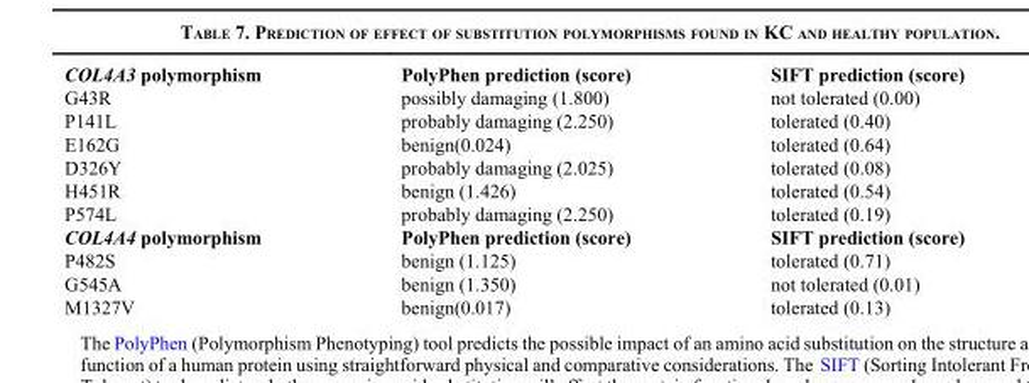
<table><thead><tr><td>COL4A3 polymorphism</td><td>PolyPhen prediction (score)</td><td>SIFT prediction (score)</td></tr></thead><tbody><tr><td>G43R</td><td>possibly damaging (1.800)</td><td>not tolerated (0.00)</td></tr><tr><td>P141L</td><td>probably damaging (2.250)</td><td>tolerated (0.40)</td></tr><tr><td>E162G</td><td>benign(0.024)</td><td>tolerated (0.64)</td></tr><tr><td>D326Y</td><td>probably damaging (2.025)</td><td>tolerated (0.08)</td></tr><tr><td>H451R</td><td>benign (1.426)</td><td>tolerated (0.54)</td></tr><tr><td>P574L</td><td>probably damaging (2.250)</td><td>tolerated (0.19)</td></tr><tr><td>COL4A4 polymorphism</td><td>PolyPhen prediction (score)</td><td>SIFT prediction (score)</td></tr><tr><td>P482S</td><td>benign (1.125)</td><td>tolerated (0.71)</td></tr><tr><td>G545A</td><td>benign (1.350)</td><td>not tolerated (0.01)</td></tr><tr><td>M1327V</td><td>benign(0.017)</td><td>tolerated (0.13)</td></tr></tbody></table>